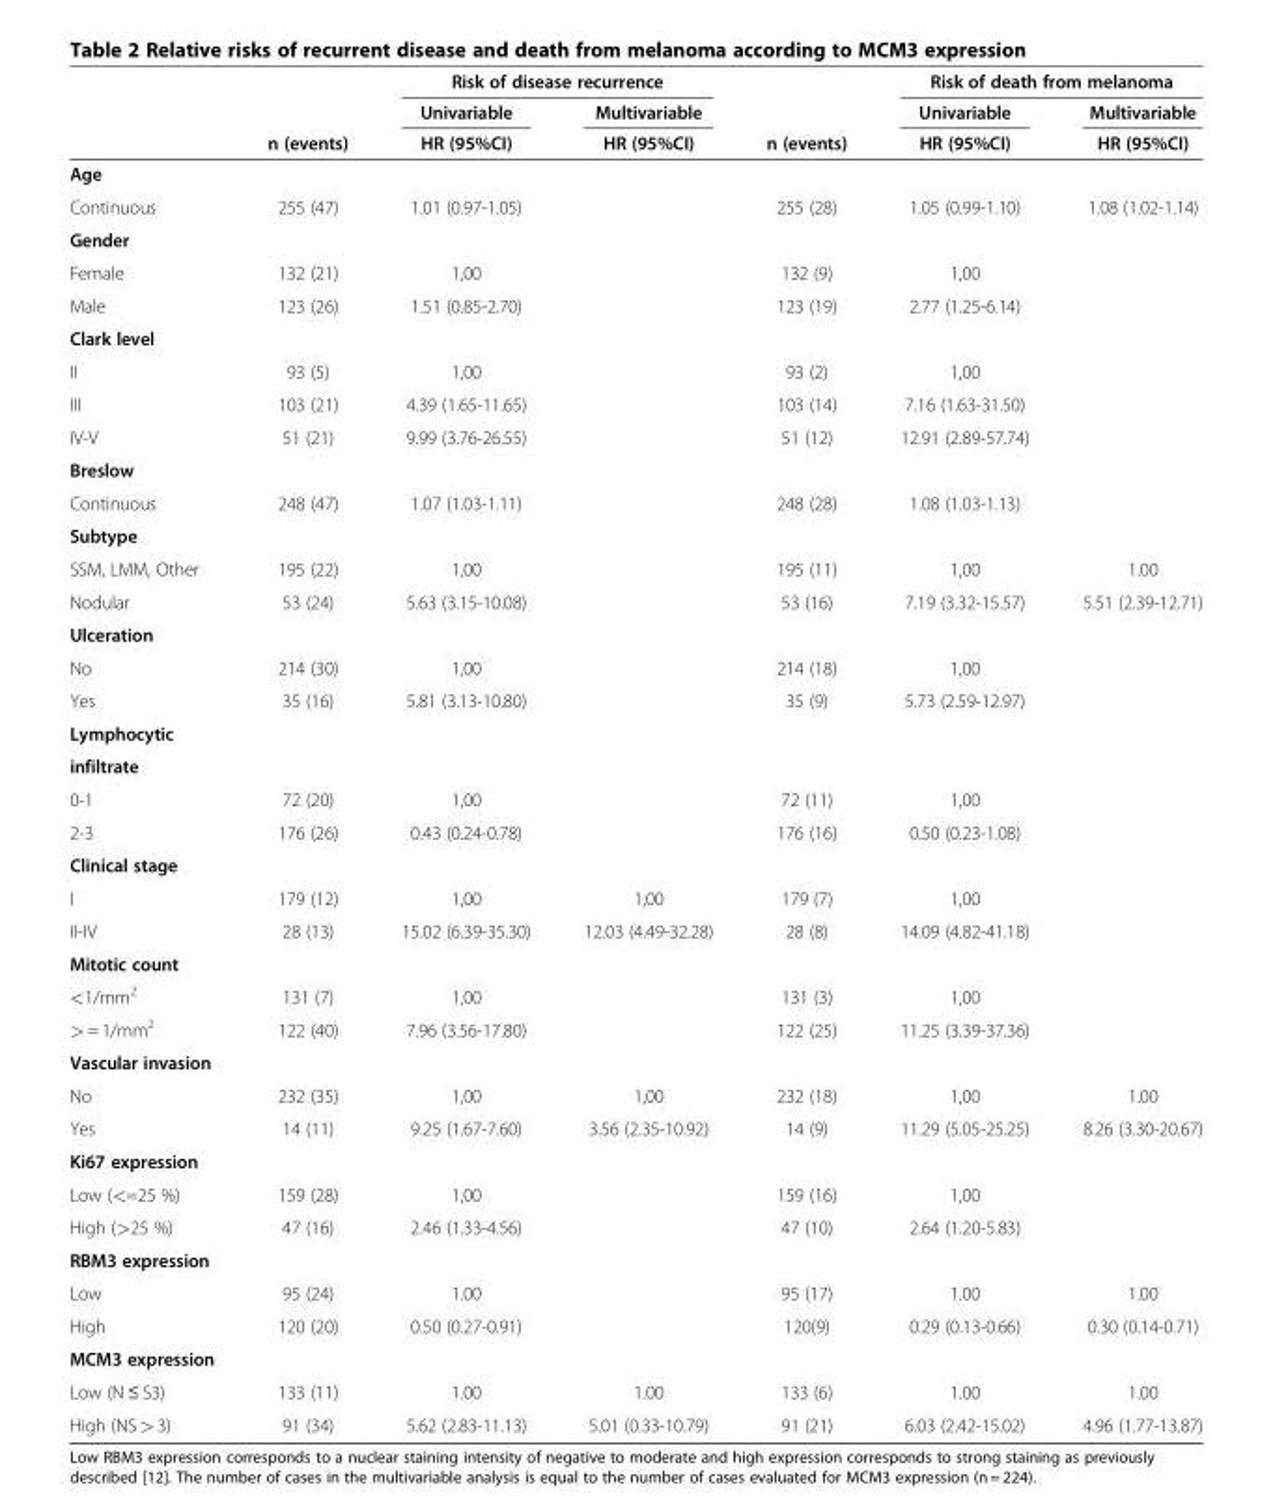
<table><thead><tr><td rowspan="3"></td><td rowspan="3">n (events)</td><td colspan="2">Risk of disease recurrence</td><td rowspan="3">n (events)</td><td colspan="2">Risk of death from melanoma</td></tr><tr><td rowspan="2">Univariable HR (95%CI)</td><td rowspan="2">Multivariable HR (95%CI)</td><td rowspan="2">Univariable HR (95%CI)</td><td rowspan="2">Multivariable HR (95%CI)</td></tr><tr></tr></thead><tbody><tr><td colspan="7">Age</td></tr><tr><td>Continuous</td><td>255 (47)</td><td>1.01 (0.97-1.05)</td><td></td><td>255 (28)</td><td>1.05 (0.99-1.10)</td><td>1.08 (1.02-1.14)</td></tr><tr><td colspan="7">Gender</td></tr><tr><td>Female</td><td>132 (21)</td><td>1,00</td><td></td><td>132 (9)</td><td>1,00</td><td></td></tr><tr><td>Male</td><td>123 (26)</td><td>1.51 (0.85-2.70)</td><td></td><td>123 (19)</td><td>2.77 (1.25-6.14)</td><td></td></tr><tr><td colspan="7">Clark level</td></tr><tr><td>II</td><td>93 (5)</td><td>1,00</td><td></td><td>93 (2)</td><td>1,00</td><td></td></tr><tr><td>III</td><td>103 (21)</td><td>4.39 (1.65-11.65)</td><td></td><td>103 (14)</td><td>7.16 (1.63-31.50)</td><td></td></tr><tr><td>IV-V</td><td>51 (21)</td><td>9.99 (3.76-26.55)</td><td></td><td>51 (12)</td><td>12.91 (2.89-57.74)</td><td></td></tr><tr><td colspan="7">Breslow</td></tr><tr><td>Continuous</td><td>248 (47)</td><td>1.07 (1.03-1.11)</td><td></td><td>248 (28)</td><td>1.08 (1.03-1.13)</td><td></td></tr><tr><td colspan="7">Subtype</td></tr><tr><td>SSM, LMM, Other</td><td>195 (22)</td><td>1,00</td><td></td><td>195 (11)</td><td>1,00</td><td>1.00</td></tr><tr><td>Nodular</td><td>53 (24)</td><td>5.63 (3.15-10.08)</td><td></td><td>53 (16)</td><td>7.19 (3.32-15.57)</td><td>5.51 (2.39-12.71)</td></tr><tr><td colspan="7">Ulceration</td></tr><tr><td>No</td><td>214 (30)</td><td>1,00</td><td></td><td>214 (18)</td><td>1,00</td><td></td></tr><tr><td>Yes</td><td>35 (16)</td><td>5.81 (3.13-10.80)</td><td></td><td>35 (9)</td><td>5.73 (2.59-12.97)</td><td></td></tr><tr><td colspan="7">Lymphocytic</td></tr><tr><td colspan="7">infiltrate</td></tr><tr><td>0-1</td><td>72 (20)</td><td>1,00</td><td></td><td>72 (11)</td><td>1,00</td><td></td></tr><tr><td>2-3</td><td>176 (26)</td><td>0.43 (0.24-0.78)</td><td></td><td>176 (16)</td><td>0.50 (0.23-1.08)</td><td></td></tr><tr><td colspan="7">Clinical stage</td></tr><tr><td>I</td><td>179 (12)</td><td>1,00</td><td>1,00</td><td>179 (7)</td><td>1,00</td><td></td></tr><tr><td>II-IV</td><td>28 (13)</td><td>15.02 (6.39-35.30)</td><td>12.03 (4.49-32.28)</td><td>28 (8)</td><td>14.09 (4.82-41.18)</td><td></td></tr><tr><td colspan="7">Mitotic count</td></tr><tr><td>&lt;1/mm<sup>2</sup></td><td>131 (7)</td><td>1,00</td><td></td><td>131 (3)</td><td>1,00</td><td></td></tr><tr><td>&gt; = 1/mm<sup>2</sup></td><td>122 (40)</td><td>7.96 (3.56-17.80)</td><td></td><td>122 (25)</td><td>11.25 (3.39-37.36)</td><td></td></tr><tr><td colspan="7">Vascular invasion</td></tr><tr><td>No</td><td>232 (35)</td><td>1,00</td><td>1,00</td><td>232 (18)</td><td>1,00</td><td>1.00</td></tr><tr><td>Yes</td><td>14 (11)</td><td>9.25 (1.67-7.60)</td><td>3.56 (2.35-10.92)</td><td>14 (9)</td><td>11.29 (5.05-25.25)</td><td>8.26 (3.30-20.67)</td></tr><tr><td colspan="7">Ki67 expression</td></tr><tr><td>Low (&lt;=25 %)</td><td>159 (28)</td><td>1,00</td><td></td><td>159 (16)</td><td>1,00</td><td></td></tr><tr><td>High (&gt;25 %)</td><td>47 (16)</td><td>2.46 (1.33-4.56)</td><td></td><td>47 (10)</td><td>2.64 (1.20-5.83)</td><td></td></tr><tr><td colspan="7">RBM3 expression</td></tr><tr><td>Low</td><td>95 (24)</td><td>1.00</td><td></td><td>95 (17)</td><td>1.00</td><td>1.00</td></tr><tr><td>High</td><td>120 (20)</td><td>0.50 (0.27-0.91)</td><td></td><td>120(9)</td><td>0.29 (0.13-0.66)</td><td>0.30 (0.14-0.71)</td></tr><tr><td colspan="7">MCM3 expression</td></tr><tr><td>Low (N ≤ S3)</td><td>133 (11)</td><td>1.00</td><td>1.00</td><td>133 (6)</td><td>1.00</td><td>1.00</td></tr><tr><td>High (NS &gt; 3)</td><td>91 (34)</td><td>5.62 (2.83-11.13)</td><td>5.01 (0.33-10.79)</td><td>91 (21)</td><td>6.03 (2.42-15.02)</td><td>4.96 (1.77-13.87)</td></tr></tbody></table>